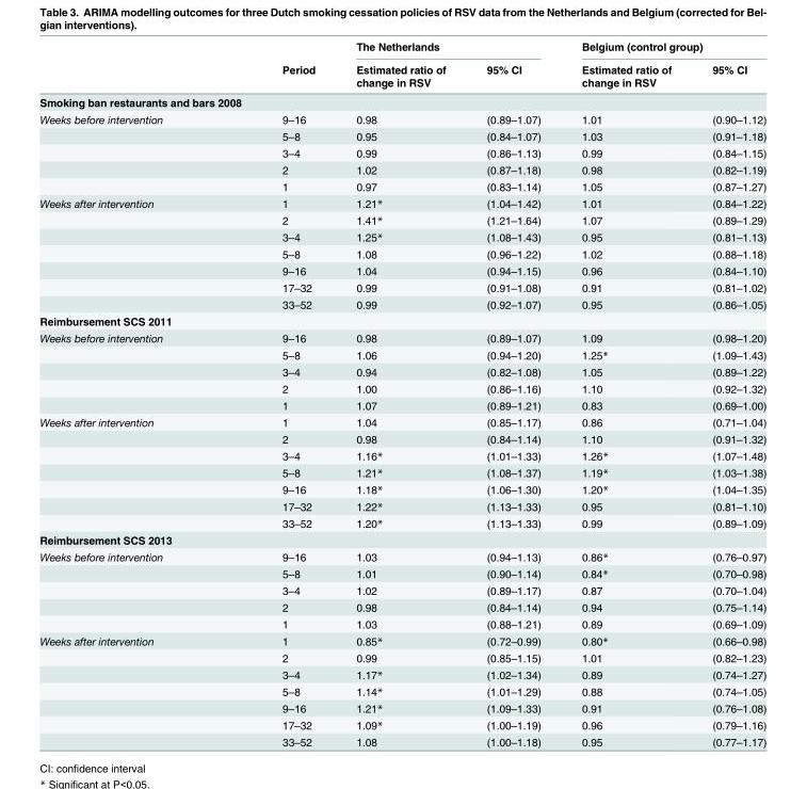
<table><thead><tr><td rowspan="2"></td><td rowspan="2">Period</td><td colspan="2">The Netherlands</td><td colspan="2">Belgium (control group)</td></tr><tr><td>Estimated ratio of change in RSV</td><td>95% CI</td><td>Estimated ratio of change in RSV</td><td>95% CI</td></tr></thead><tbody><tr><td colspan="6">Smoking ban restaurants and bars 2008</td></tr><tr><td rowspan="5">Weeks before intervention</td><td>9–16</td><td>0.98</td><td>(0.89–1.07)</td><td>1.01</td><td>(0.90–1.12)</td></tr><tr><td>5–8</td><td>0.95</td><td>(0.84–1.07)</td><td>1.03</td><td>(0.91–1.18)</td></tr><tr><td>3–4</td><td>0.99</td><td>(0.86–1.13)</td><td>0.99</td><td>(0.84–1.15)</td></tr><tr><td>2</td><td>1.02</td><td>(0.87–1.18)</td><td>0.98</td><td>(0.82–1.19)</td></tr><tr><td>1</td><td>0.97</td><td>(0.83–1.14)</td><td>1.05</td><td>(0.87–1.27)</td></tr><tr><td rowspan="7">Weeks after intervention</td><td>1</td><td>1.21*</td><td>(1.04–1.42)</td><td>1.01</td><td>(0.84–1.22)</td></tr><tr><td>2</td><td>1.41*</td><td>(1.21–1.64)</td><td>1.07</td><td>(0.89–1.29)</td></tr><tr><td>3–4</td><td>1.25*</td><td>(1.08–1.43)</td><td>0.95</td><td>(0.81–1.13)</td></tr><tr><td>5–8</td><td>1.08</td><td>(0.96–1.22)</td><td>1.02</td><td>(0.88–1.18)</td></tr><tr><td>9–16</td><td>1.04</td><td>(0.94–1.15)</td><td>0.96</td><td>(0.84–1.10)</td></tr><tr><td>17–32</td><td>0.99</td><td>(0.91–1.08)</td><td>0.91</td><td>(0.81–1.02)</td></tr><tr><td>33–52</td><td>0.99</td><td>(0.92–1.07)</td><td>0.95</td><td>(0.86–1.05)</td></tr><tr><td colspan="6">Reimbursement SCS 2011</td></tr><tr><td rowspan="5">Weeks before intervention</td><td>9–16</td><td>0.98</td><td>(0.89–1.07)</td><td>1.09</td><td>(0.98–1.20)</td></tr><tr><td>5–8</td><td>1.06</td><td>(0.94–1.20)</td><td>1.25*</td><td>(1.09–1.43)</td></tr><tr><td>3–4</td><td>0.94</td><td>(0.82–1.08)</td><td>1.05</td><td>(0.89–1.22)</td></tr><tr><td>2</td><td>1.00</td><td>(0.86–1.16)</td><td>1.10</td><td>(0.92–1.32)</td></tr><tr><td>1</td><td>1.07</td><td>(0.89–1.21)</td><td>0.83</td><td>(0.69–1.00)</td></tr><tr><td rowspan="7">Weeks after intervention</td><td>1</td><td>1.04</td><td>(0.85–1.17)</td><td>0.86</td><td>(0.71–1.04)</td></tr><tr><td>2</td><td>0.98</td><td>(0.84–1.14)</td><td>1.10</td><td>(0.91–1.32)</td></tr><tr><td>3–4</td><td>1.16*</td><td>(1.01–1.33)</td><td>1.26*</td><td>(1.07–1.48)</td></tr><tr><td>5–8</td><td>1.21*</td><td>(1.08–1.37)</td><td>1.19*</td><td>(1.03–1.38)</td></tr><tr><td>9–16</td><td>1.18*</td><td>(1.06–1.30)</td><td>1.20*</td><td>(1.04–1.35)</td></tr><tr><td>17–32</td><td>1.22*</td><td>(1.13–1.33)</td><td>0.95</td><td>(0.81–1.10)</td></tr><tr><td>33–52</td><td>1.20*</td><td>(1.13–1.33)</td><td>0.99</td><td>(0.89–1.09)</td></tr><tr><td colspan="6">Reimbursement SCS 2013</td></tr><tr><td rowspan="5">Weeks before intervention</td><td>9–16</td><td>1.03</td><td>(0.94–1.13)</td><td>0.86*</td><td>(0.76–0.97)</td></tr><tr><td>5–8</td><td>1.01</td><td>(0.90–1.14)</td><td>0.84*</td><td>(0.70–0.98)</td></tr><tr><td>3–4</td><td>1.02</td><td>(0.89–1.17)</td><td>0.87</td><td>(0.70–1.04)</td></tr><tr><td>2</td><td>0.98</td><td>(0.84–1.14)</td><td>0.94</td><td>(0.75–1.14)</td></tr><tr><td>1</td><td>1.03</td><td>(0.88–1.21)</td><td>0.89</td><td>(0.69–1.09)</td></tr><tr><td rowspan="7">Weeks after intervention</td><td>1</td><td>0.85*</td><td>(0.72–0.99)</td><td>0.80*</td><td>(0.66–0.98)</td></tr><tr><td>2</td><td>0.99</td><td>(0.85–1.15)</td><td>1.01</td><td>(0.82–1.23)</td></tr><tr><td>3–4</td><td>1.17*</td><td>(1.02–1.34)</td><td>0.89</td><td>(0.74–1.27)</td></tr><tr><td>5–8</td><td>1.14*</td><td>(1.01–1.29)</td><td>0.88</td><td>(0.74–1.05)</td></tr><tr><td>9–16</td><td>1.21*</td><td>(1.09–1.33)</td><td>0.91</td><td>(0.76–1.08)</td></tr><tr><td>17–32</td><td>1.09*</td><td>(1.00–1.19)</td><td>0.96</td><td>(0.79–1.16)</td></tr><tr><td>33–52</td><td>1.08</td><td>(1.00–1.18)</td><td>0.95</td><td>(0.77–1.17)</td></tr></tbody></table>